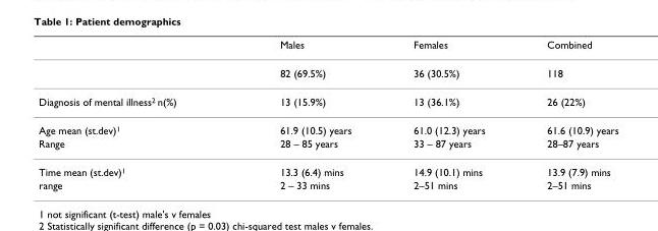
<table><thead><tr><td></td><td>Males</td><td>Females</td><td>Combined</td></tr></thead><tbody><tr><td></td><td>82 (69.5%)</td><td>36 (30.5%)</td><td>118</td></tr><tr><td>Diagnosis of mental illness<sup>2</sup> n(%)</td><td>13 (15.9%)</td><td>13 (36.1%)</td><td>26 (22%)</td></tr><tr><td>Age mean (st.dev)<sup>1</sup></td><td>61.9 (10.5) years</td><td>61.0 (12.3) years</td><td>61.6 (10.9) years</td></tr><tr><td>Range</td><td>28 – 85 years</td><td>33 – 87 years</td><td>28–87 years</td></tr><tr><td>Time mean (st.dev)<sup>1</sup></td><td>13.3 (6.4) mins</td><td>14.9 (10.1) mins</td><td>13.9 (7.9) mins</td></tr><tr><td>range</td><td>2 – 33 mins</td><td>2–51 mins</td><td>2–51 mins</td></tr></tbody></table>